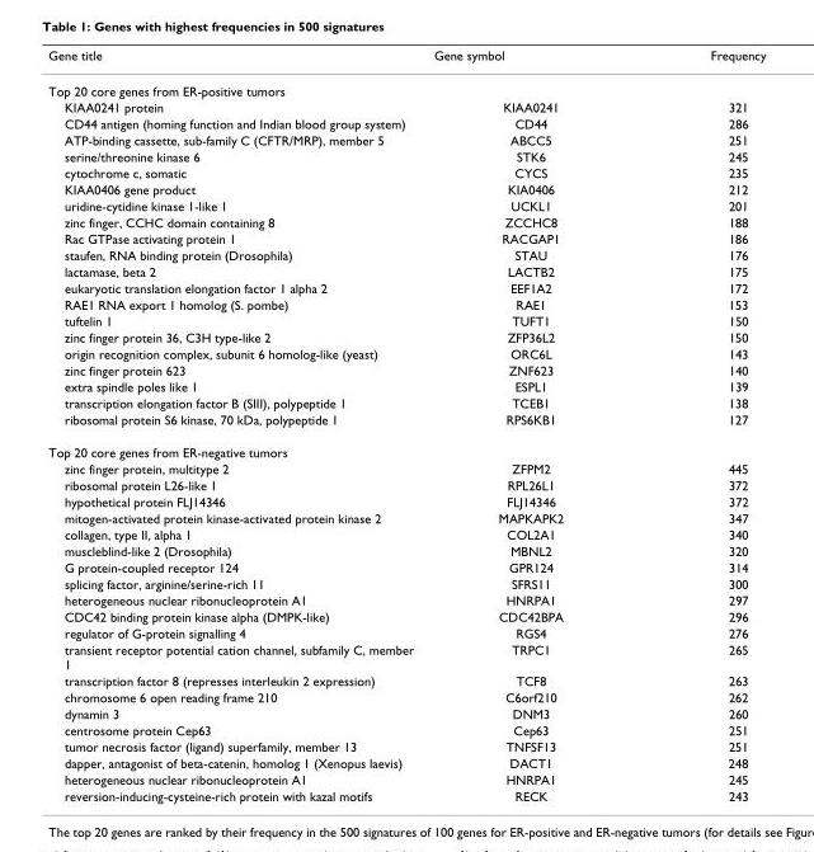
<table><thead><tr><td>Gene title</td><td>Gene symbol</td><td>Frequency</td></tr></thead><tbody><tr><td colspan="3">Top 20 core genes from ER-positive tumors</td></tr><tr><td>KIAA0241 protein</td><td>KIAA0241</td><td>321</td></tr><tr><td>CD44 antigen (homing function and Indian blood group system)</td><td>CD44</td><td>286</td></tr><tr><td>ATP-binding cassette, sub-family C (CFTR/MRP), member 5</td><td>ABCC5</td><td>251</td></tr><tr><td>serine/threonine kinase 6</td><td>STK6</td><td>245</td></tr><tr><td>cytochrome c, somatic</td><td>CYCS</td><td>235</td></tr><tr><td>KIAA0406 gene product</td><td>KIA0406</td><td>212</td></tr><tr><td>uridine-cytidine kinase 1-like 1</td><td>UCKL1</td><td>201</td></tr><tr><td>zinc finger, CCHC domain containing 8</td><td>ZCCHC8</td><td>188</td></tr><tr><td>Rac GTPase activating protein 1</td><td>RACGAP1</td><td>186</td></tr><tr><td>staufen, RNA binding protein (Drosophila)</td><td>STAU</td><td>176</td></tr><tr><td>lactamase, beta 2</td><td>LACTB2</td><td>175</td></tr><tr><td>eukaryotic translation elongation factor 1 alpha 2</td><td>EEF1A2</td><td>172</td></tr><tr><td>RAE1 RNA export 1 homolog (S. pombe)</td><td>RAE1</td><td>153</td></tr><tr><td>tuftelin 1</td><td>TUFT1</td><td>150</td></tr><tr><td>zinc finger protein 36, C3H type-like 2</td><td>ZFP36L2</td><td>150</td></tr><tr><td>origin recognition complex, subunit 6 homolog-like (yeast)</td><td>ORC6L</td><td>143</td></tr><tr><td>zinc finger protein 623</td><td>ZNF623</td><td>140</td></tr><tr><td>extra spindle poles like 1</td><td>ESPL1</td><td>139</td></tr><tr><td>transcription elongation factor B (SIII), polypeptide 1</td><td>TCEB1</td><td>138</td></tr><tr><td>ribosomal protein S6 kinase, 70 kDa, polypeptide 1</td><td>RPS6KB1</td><td>127</td></tr><tr><td colspan="3">Top 20 core genes from ER-negative tumors</td></tr><tr><td>zinc finger protein, multitype 2</td><td>ZFPM2</td><td>445</td></tr><tr><td>ribosomal protein L26-like 1</td><td>RPL26L1</td><td>372</td></tr><tr><td>hypothetical protein FLJ14346</td><td>FLJ14346</td><td>372</td></tr><tr><td>mitogen-activated protein kinase-activated protein kinase 2</td><td>MAPKAPK2</td><td>347</td></tr><tr><td>collagen, type II, alpha 1</td><td>COL2A1</td><td>340</td></tr><tr><td>muscleblind-like 2 (Drosophila)</td><td>MBNL2</td><td>320</td></tr><tr><td>G protein-coupled receptor 124</td><td>GPR124</td><td>314</td></tr><tr><td>splicing factor, arginine/serine-rich 11</td><td>SFRS11</td><td>300</td></tr><tr><td>heterogeneous nuclear ribonucleoprotein A1</td><td>HNRPA1</td><td>297</td></tr><tr><td>CDC42 binding protein kinase alpha (DMPK-like)</td><td>CDC42BPA</td><td>296</td></tr><tr><td>regulator of G-protein signalling 4</td><td>RGS4</td><td>276</td></tr><tr><td>transient receptor potential cation channel, subfamily C, member 1</td><td>TRPC1</td><td>265</td></tr><tr><td>transcription factor 8 (represses interleukin 2 expression)</td><td>TCF8</td><td>263</td></tr><tr><td>chromosome 6 open reading frame 210</td><td>C6orf210</td><td>262</td></tr><tr><td>dynamin 3</td><td>DNM3</td><td>260</td></tr><tr><td>centrosome protein Cep63</td><td>Cep63</td><td>251</td></tr><tr><td>tumor necrosis factor (ligand) superfamily, member 13</td><td>TNFSF13</td><td>251</td></tr><tr><td>dapper, antagonist of beta-catenin, homolog 1 (Xenopus laevis)</td><td>DACT1</td><td>248</td></tr><tr><td>heterogeneous nuclear ribonucleoprotein A1</td><td>HNRPA1</td><td>245</td></tr><tr><td>reversion-inducing-cysteine-rich protein with kazal motifs</td><td>RECK</td><td>243</td></tr></tbody></table>